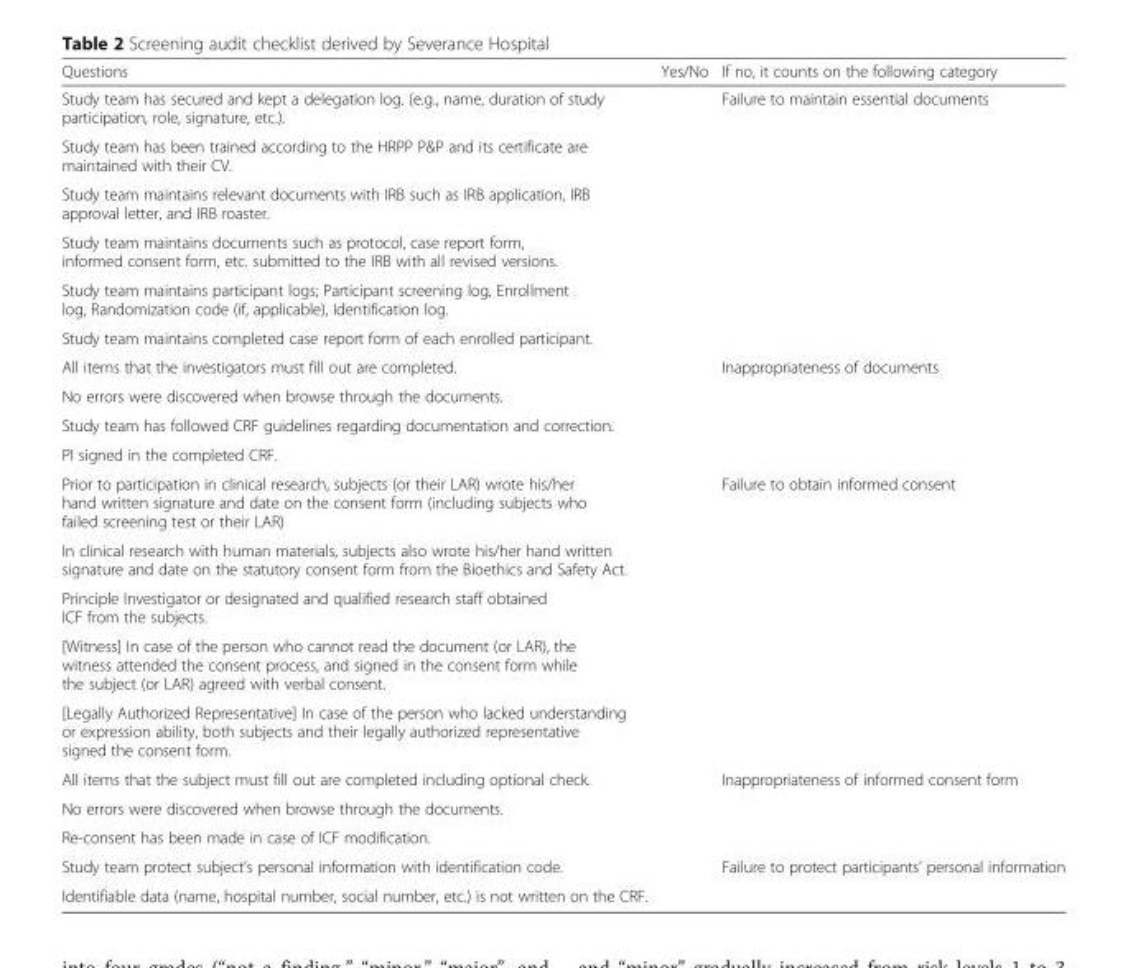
<table><thead><tr><td>Questions</td><td>Yes/No</td><td>If no, it counts on the following category</td></tr></thead><tbody><tr><td colspan="2">Study team has secured and kept a delegation log. (e.g., name, duration of study participation, role, signature, etc.).</td><td rowspan="6">Failure to maintain essential documents</td></tr><tr><td colspan="2">Study team has been trained according to the HRPP P&amp;P and its certificate are maintained with their CV.</td></tr><tr><td colspan="2">Study team maintains relevant documents with IRB such as IRB application, IRB approval letter, and IRB roaster.</td></tr><tr><td colspan="2">Study team maintains documents such as protocol, case report form, informed consent form, etc. submitted to the IRB with all revised versions.</td></tr><tr><td colspan="2">Study team maintains participant logs; Participant screening log, Enrollment log, Randomization code (if, applicable), Identification log.</td></tr><tr><td colspan="2">Study team maintains completed case report form of each enrolled participant.</td></tr><tr><td colspan="2">All items that the investigators must fill out are completed.</td><td rowspan="4">Inappropriateness of documents</td></tr><tr><td colspan="2">No errors were discovered when browse through the documents.</td></tr><tr><td colspan="2">Study team has followed CRF guidelines regarding documentation and correction.</td></tr><tr><td colspan="2">PI signed in the completed CRF.</td></tr><tr><td colspan="2">Prior to participation in clinical research, subjects (or their LAR) wrote his/her hand written signature and date on the consent form (including subjects who failed screening test or their LAR)</td><td rowspan="5">Failure to obtain informed consent</td></tr><tr><td colspan="2">In clinical research with human materials, subjects also wrote his/her hand written signature and date on the statutory consent form from the Bioethics and Safety Act.</td></tr><tr><td colspan="2">Principle Investigator or designated and qualified research staff obtained ICF from the subjects.</td></tr><tr><td colspan="2">[Witness] In case of the person who cannot read the document (or LAR), the witness attended the consent process, and signed in the consent form while the subject (or LAR) agreed with verbal consent.</td></tr><tr><td colspan="2">[Legally Authorized Representative] In case of the person who lacked understanding or expression ability, both subjects and their legally authorized representative signed the consent form.</td></tr><tr><td colspan="2">All items that the subject must fill out are completed including optional check.</td><td rowspan="3">Inappropriateness of informed consent form</td></tr><tr><td colspan="2">No errors were discovered when browse through the documents.</td></tr><tr><td colspan="2">Re-consent has been made in case of ICF modification.</td></tr><tr><td colspan="2">Study team protect subject’s personal information with identification code.</td><td rowspan="2">Failure to protect participants’ personal information</td></tr><tr><td>Identifiable data (name, hospital number, social number, etc.) is not written on the CRF.</td><td></td></tr></tbody></table>